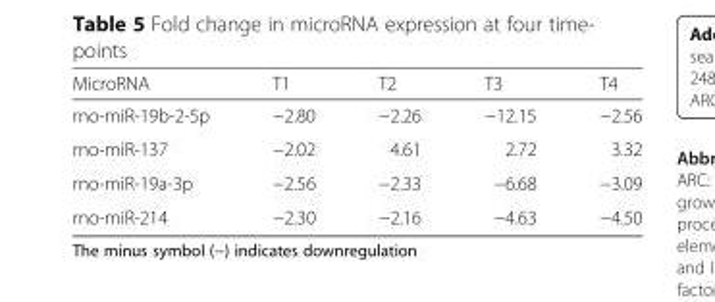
<table><thead><tr><td>MicroRNA</td><td>T1</td><td>T2</td><td>T3</td><td>T4</td></tr></thead><tbody><tr><td>rno-miR-19b-2-5p</td><td>−2.80</td><td>−2.26</td><td>−12.15</td><td>−2.56</td></tr><tr><td>rno-miR-137</td><td>−2.02</td><td>4.61</td><td>2.72</td><td>3.32</td></tr><tr><td>rno-miR-19a-3p</td><td>−2.56</td><td>−2.33</td><td>−6.68</td><td>−3.09</td></tr><tr><td>rno-miR-214</td><td>−2.30</td><td>−2.16</td><td>−4.63</td><td>−4.50</td></tr></tbody></table>